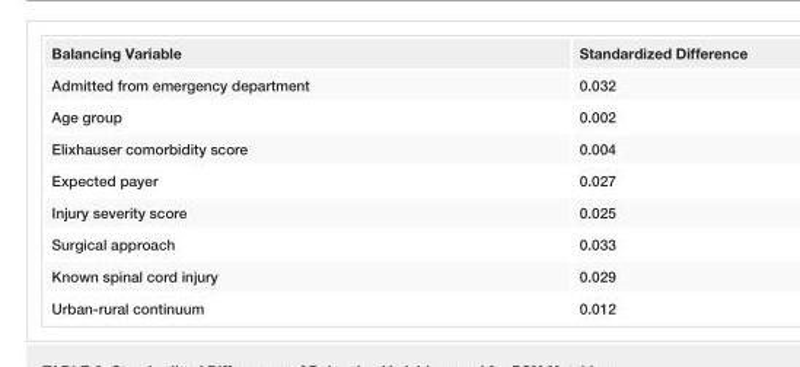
<table><tbody><tr><td>Balancing Variable</td><td>Standardized Difference</td></tr><tr><td>Admitted from emergency department</td><td>0.032</td></tr><tr><td>Age group</td><td>0.002</td></tr><tr><td>Elixhauser comorbidity score</td><td>0.004</td></tr><tr><td>Expected payer</td><td>0.027</td></tr><tr><td>Injury severity score</td><td>0.025</td></tr><tr><td>Surgical approach</td><td>0.033</td></tr><tr><td>Known spinal cord injury</td><td>0.029</td></tr><tr><td>Urban-rural continuum</td><td>0.012</td></tr></tbody></table>